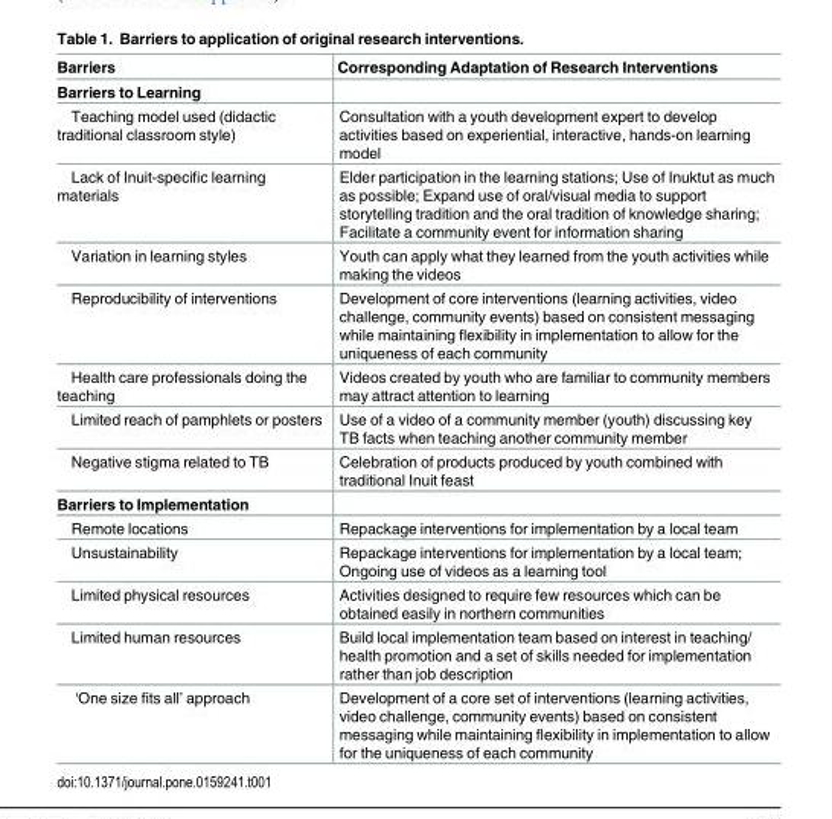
<table><thead><tr><td>Barriers</td><td>Corresponding Adaptation of Research Interventions</td></tr></thead><tbody><tr><td colspan="2">Barriers to Learning</td></tr><tr><td>Teaching model used (didactic traditional classroom style)</td><td>Consultation with a youth development expert to develop activities based on experiential, interactive, hands-on learning model</td></tr><tr><td>Lack of Inuit-specific learning materials</td><td>Elder participation in the learning stations; Use of Inuktut as much as possible; Expand use of oral/visual media to support storytelling tradition and the oral tradition of knowledge sharing; Facilitate a community event for information sharing</td></tr><tr><td>Variation in learning styles</td><td>Youth can apply what they learned from the youth activities while making the videos</td></tr><tr><td>Reproducibility of interventions</td><td>Development of core interventions (learning activities, video challenge, community events) based on consistent messaging while maintaining flexibility in implementation to allow for the uniqueness of each community</td></tr><tr><td>Health care professionals doing the teaching</td><td>Videos created by youth who are familiar to community members may attract attention to learning</td></tr><tr><td>Limited reach of pamphlets or posters</td><td>Use of a video of a community member (youth) discussing key TB facts when teaching another community member</td></tr><tr><td>Negative stigma related to TB</td><td>Celebration of products produced by youth combined with traditional Inuit feast</td></tr><tr><td colspan="2">Barriers to Implementation</td></tr><tr><td>Remote locations</td><td>Repackage interventions for implementation by a local team</td></tr><tr><td>Unsustainability</td><td>Repackage interventions for implementation by a local team; Ongoing use of videos as a learning tool</td></tr><tr><td>Limited physical resources</td><td>Activities designed to require few resources which can be obtained easily in northern communities</td></tr><tr><td>Limited human resources</td><td>Build local implementation team based on interest in teaching/ health promotion and a set of skills needed for implementation rather than job description</td></tr><tr><td>‘One size fits all’ approach</td><td>Development of a core set of interventions (learning activities, video challenge, community events) based on consistent messaging while maintaining flexibility in implementation to allow for the uniqueness of each community</td></tr></tbody></table>